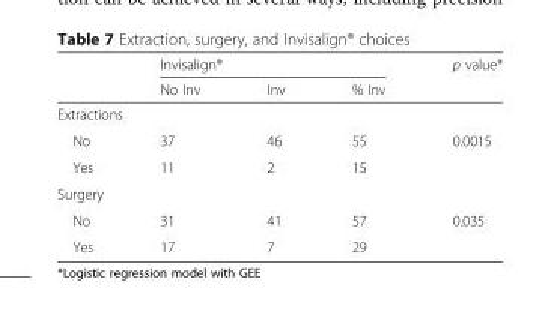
<table><thead><tr><td rowspan="2"></td><td colspan="3">Invisalign®</td><td rowspan="2">p value*</td></tr><tr><td>No Inv</td><td>Inv</td><td>% Inv</td></tr></thead><tbody><tr><td colspan="5">Extractions</td></tr><tr><td>No</td><td>37</td><td>46</td><td>55</td><td>0.0015</td></tr><tr><td>Yes</td><td>11</td><td>2</td><td>15</td><td></td></tr><tr><td colspan="5">Surgery</td></tr><tr><td>No</td><td>31</td><td>41</td><td>57</td><td>0.035</td></tr><tr><td>Yes</td><td>17</td><td>7</td><td>29</td><td></td></tr></tbody></table>